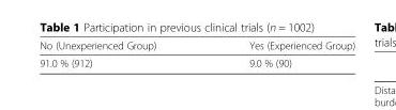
<table><thead><tr><td>No (Unexperienced Group)</td><td>Yes (Experienced Group)</td></tr></thead><tbody><tr><td>91.0 % (912)</td><td>9.0 % (90)</td></tr></tbody></table>